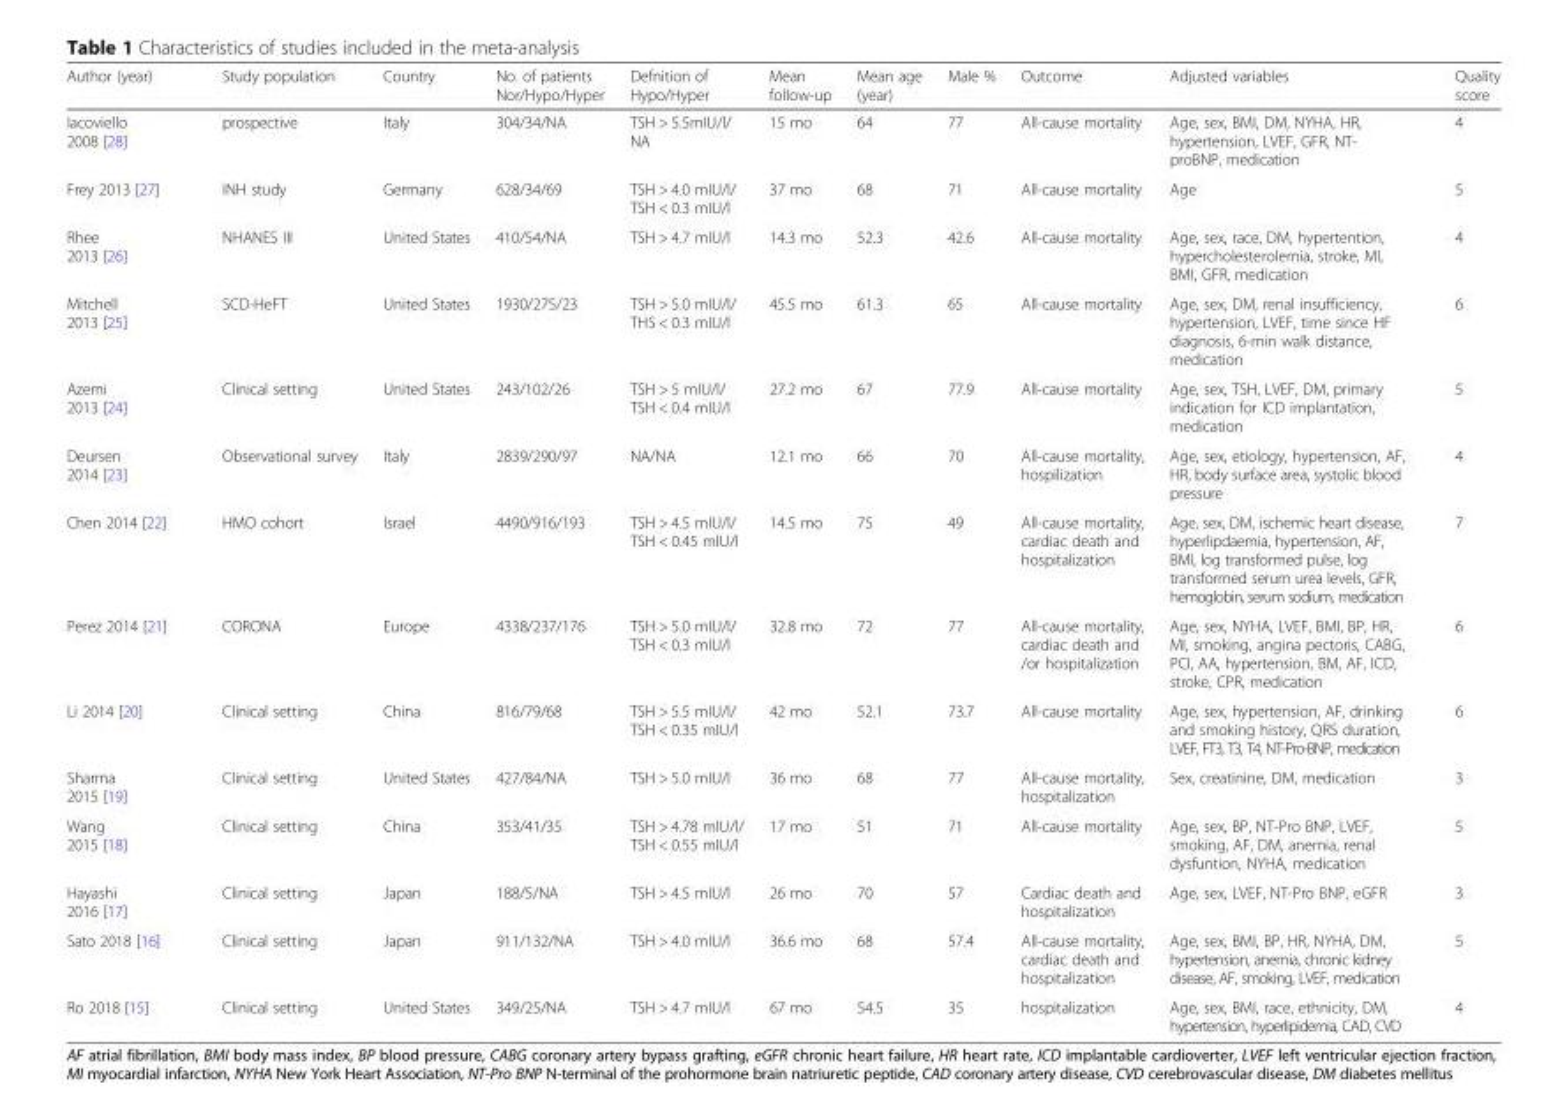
<table><thead><tr><td>Author (year)</td><td>Study population</td><td>Country</td><td>No. of patients Nor/Hypo/Hyper</td><td>Defnition of Hypo/Hyper</td><td>Mean follow-up</td><td>Mean age (year)</td><td>Male %</td><td>Outcome</td><td>Adjusted variables</td><td>Quality score</td></tr></thead><tbody><tr><td>Iacoviello 2008 [28]</td><td>prospective</td><td>Italy</td><td>304/34/NA</td><td>TSH &gt; 5.5mIU/l/ NA</td><td>15 mo</td><td>64</td><td>77</td><td>All-cause mortality</td><td>Age, sex, BMI, DM, NYHA, HR, hypertension, LVEF, GFR, NT- proBNP, medication</td><td>4</td></tr><tr><td>Frey 2013 [27]</td><td>INH study</td><td>Germany</td><td>628/34/69</td><td>TSH &gt; 4.0 mIU/l/ TSH &lt; 0.3 mIU/l</td><td>37 mo</td><td>68</td><td>71</td><td>All-cause mortality</td><td>Age</td><td>5</td></tr><tr><td>Rhee 2013 [26]</td><td>NHANES III</td><td>United States</td><td>410/54/NA</td><td>TSH &gt; 4.7 mIU/l</td><td>14.3 mo</td><td>52.3</td><td>42.6</td><td>All-cause mortality</td><td>Age, sex, race, DM, hypertention, hypercholesterolemia, stroke, MI, BMI, GFR, medication</td><td>4</td></tr><tr><td>Mitchell 2013 [25]</td><td>SCD-HeFT</td><td>United States</td><td>1930/275/23</td><td>TSH &gt; 5.0 mIU/l/ THS &lt; 0.3 mIU/l</td><td>45.5 mo</td><td>61.3</td><td>65</td><td>All-cause mortality</td><td>Age, sex, DM, renal insufficiency, hypertension, LVEF, time since HF diagnosis, 6-min walk distance, medication</td><td>6</td></tr><tr><td>Azemi 2013 [24]</td><td>Clinical setting</td><td>United States</td><td>243/102/26</td><td>TSH &gt; 5 mIU/l/ TSH &lt; 0.4 mIU/l</td><td>27.2 mo</td><td>67</td><td>77.9</td><td>All-cause mortality</td><td>Age, sex, TSH, LVEF, DM, primary indication for ICD implantation, medication</td><td>5</td></tr><tr><td>Deursen 2014 [23]</td><td>Observational survey</td><td>Italy</td><td>2839/290/97</td><td>NA/NA</td><td>12.1 mo</td><td>66</td><td>70</td><td>All-cause mortality, hospilization</td><td>Age, sex, etiology, hypertension, AF, HR, body surface area, systolic blood pressure</td><td>4</td></tr><tr><td>Chen 2014 [22]</td><td>HMO cohort</td><td>Israel</td><td>4490/916/193</td><td>TSH &gt; 4.5 mIU/l/ TSH &lt; 0.45 mIU/l</td><td>14.5 mo</td><td>75</td><td>49</td><td>All-cause mortality, cardiac death and hospitalization</td><td>Age, sex, DM, ischemic heart disease, hyperlipdaemia, hypertension, AF, BMI, log transformed pulse, log transformed serum urea levels, GFR, hemoglobin, serum sodium, medication</td><td>7</td></tr><tr><td>Perez 2014 [21]</td><td>CORONA</td><td>Europe</td><td>4338/237/176</td><td>TSH &gt; 5.0 mIU/l/ TSH &lt; 0.3 mIU/l</td><td>32.8 mo</td><td>72</td><td>77</td><td>All-cause mortality, cardiac death and /or hospitalization</td><td>Age, sex, NYHA, LVEF, BMI, BP, HR, MI, smoking, angina pectoris, CABG, PCI, AA, hypertension, BM, AF, ICD, stroke, CPR, medication</td><td>6</td></tr><tr><td>Li 2014 [20]</td><td>Clinical setting</td><td>China</td><td>816/79/68</td><td>TSH &gt; 5.5 mIU/l/ TSH &lt; 0.35 mIU/l</td><td>42 mo</td><td>52.1</td><td>73.7</td><td>All-cause mortality</td><td>Age, sex, hypertension, AF, drinking and smoking history, QRS duration, LVEF, FT3, T3, T4, NT-Pro-BNP, medication</td><td>6</td></tr><tr><td>Sharma 2015 [19]</td><td>Clinical setting</td><td>United States</td><td>427/84/NA</td><td>TSH &gt; 5.0 mIU/l</td><td>36 mo</td><td>68</td><td>77</td><td>All-cause mortality, hospitalization</td><td>Sex, creatinine, DM, medication</td><td>3</td></tr><tr><td>Wang 2015 [18]</td><td>Clinical setting</td><td>China</td><td>353/41/35</td><td>TSH &gt; 4.78 mIU/l/ TSH &lt; 0.55 mIU/l</td><td>17 mo</td><td>51</td><td>71</td><td>All-cause mortality</td><td>Age, sex, BP, NT-Pro BNP, LVEF, smoking, AF, DM, anemia, renal dysfuntion, NYHA, medication</td><td>5</td></tr><tr><td>Hayashi 2016 [17]</td><td>Clinical setting</td><td>Japan</td><td>188/5/NA</td><td>TSH &gt; 4.5 mIU/l</td><td>26 mo</td><td>70</td><td>57</td><td>Cardiac death and hospitalization</td><td>Age, sex, LVEF, NT-Pro BNP, eGFR</td><td>3</td></tr><tr><td>Sato 2018 [16]</td><td>Clinical setting</td><td>Japan</td><td>911/132/NA</td><td>TSH &gt; 4.0 mIU/l</td><td>36.6 mo</td><td>68</td><td>57.4</td><td>All-cause mortality, cardiac death and hospitalization</td><td>Age, sex, BMI, BP, HR, NYHA, DM, hypertension, anemia, chronic kidney disease, AF, smoking, LVEF, medication</td><td>5</td></tr><tr><td>Ro 2018 [15]</td><td>Clinical setting</td><td>United States</td><td>349/25/NA</td><td>TSH &gt; 4.7 mIU/l</td><td>67 mo</td><td>54.5</td><td>35</td><td>hospitalization</td><td>Age, sex, BMI, race, ethnicity, DM, hypertension, hyperlipidemia, CAD, CVD</td><td>4</td></tr></tbody></table>